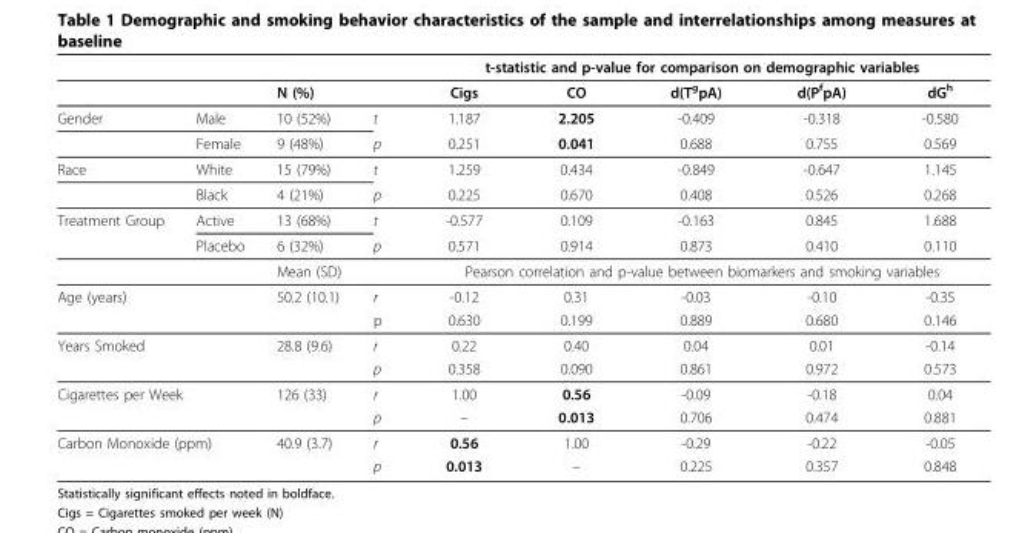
<table><thead><tr><td rowspan="2"></td><td rowspan="2"></td><td rowspan="2">N (%)</td><td rowspan="2"></td><td colspan="5">t-statistic and p-value for comparison on demographic variables</td></tr><tr><td>Cigs</td><td>CO</td><td>d(T<sup>g</sup>pA)</td><td>d(P<sup>f</sup>pA)</td><td>dG<sup>h</sup></td></tr></thead><tbody><tr><td rowspan="2">Gender</td><td>Male</td><td>10 (52%)</td><td>t</td><td>1.187</td><td>2.205</td><td>-0.409</td><td>-0.318</td><td>-0.580</td></tr><tr><td>Female</td><td>9 (48%)</td><td>p</td><td>0.251</td><td>0.041</td><td>0.688</td><td>0.755</td><td>0.569</td></tr><tr><td rowspan="2">Race</td><td>White</td><td>15 (79%)</td><td>t</td><td>1.259</td><td>0.434</td><td>-0.849</td><td>-0.647</td><td>1.145</td></tr><tr><td>Black</td><td>4 (21%)</td><td>p</td><td>0.225</td><td>0.670</td><td>0.408</td><td>0.526</td><td>0.268</td></tr><tr><td rowspan="3">Treatment Group</td><td>Active</td><td>13 (68%)</td><td>t</td><td>-0.577</td><td>0.109</td><td>-0.163</td><td>0.845</td><td>1.688</td></tr><tr><td>Placebo</td><td>6 (32%)</td><td>p</td><td>0.571</td><td>0.914</td><td>0.873</td><td>0.410</td><td>0.110</td></tr><tr><td></td><td>Mean (SD)</td><td></td><td colspan="5">Pearson correlation and p-value between biomarkers and smoking variables</td></tr><tr><td colspan="2">Age (years)</td><td>50.2 (10.1)</td><td>r</td><td>-0.12</td><td>0.31</td><td>-0.03</td><td>-0.10</td><td>-0.35</td></tr><tr><td></td><td></td><td></td><td>p</td><td>0.630</td><td>0.199</td><td>0.889</td><td>0.680</td><td>0.146</td></tr><tr><td colspan="2">Years Smoked</td><td>28.8 (9.6)</td><td>r</td><td>0.22</td><td>0.40</td><td>0.04</td><td>0.01</td><td>-0.14</td></tr><tr><td></td><td></td><td></td><td>p</td><td>0.358</td><td>0.090</td><td>0.861</td><td>0.972</td><td>0.573</td></tr><tr><td colspan="2">Cigarettes per Week</td><td>126 (33)</td><td>r</td><td>1.00</td><td>0.56</td><td>-0.09</td><td>-0.18</td><td>0.04</td></tr><tr><td></td><td></td><td></td><td>p</td><td>–</td><td>0.013</td><td>0.706</td><td>0.474</td><td>0.881</td></tr><tr><td colspan="2">Carbon Monoxide (ppm)</td><td>40.9 (3.7)</td><td>r</td><td>0.56</td><td>1.00</td><td>-0.29</td><td>-0.22</td><td>-0.05</td></tr><tr><td></td><td></td><td></td><td>p</td><td>0.013</td><td>–</td><td>0.225</td><td>0.357</td><td>0.848</td></tr></tbody></table>